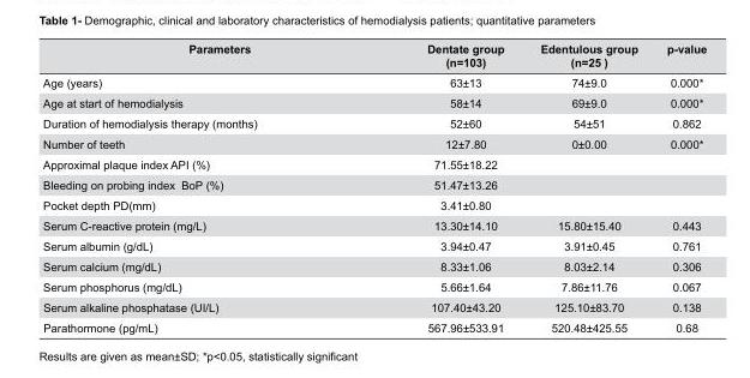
<table><thead><tr><td>Parameters</td><td>Dentate group (n=103)</td><td>Edentulous group (n=25 )</td><td>p-value</td></tr></thead><tbody><tr><td>Age (years)</td><td>63±13</td><td>74±9.0</td><td>0.000*</td></tr><tr><td>Age at start of hemodialysis</td><td>58±14</td><td>69±9.0</td><td>0.000*</td></tr><tr><td>Duration of hemodialysis therapy (months)</td><td>52±60</td><td>54±51</td><td>0.862</td></tr><tr><td>Number of teeth</td><td>12±7.80</td><td>0±0.00</td><td>0.000*</td></tr><tr><td>Approximal plaque index API (%)</td><td>71.55±18.22</td><td></td><td></td></tr><tr><td>Bleeding on probing index BoP (%)</td><td>51.47±13.26</td><td></td><td></td></tr><tr><td>Pocket depth PD(mm)</td><td>3.41±0.80</td><td></td><td></td></tr><tr><td>Serum C-reactive protein (mg/L)</td><td>13.30±14.10</td><td>15.80±15.40</td><td>0.443</td></tr><tr><td>Serum albumin (g/dL)</td><td>3.94±0.47</td><td>3.91±0.45</td><td>0.761</td></tr><tr><td>Serum calcium (mg/dL)</td><td>8.33±1.06</td><td>8.03±2.14</td><td>0.306</td></tr><tr><td>Serum phosphorus (mg/dL)</td><td>5.66±1.64</td><td>7.86±11.76</td><td>0.067</td></tr><tr><td>Serum alkaline phosphatase (UI/L)</td><td>107.40±43.20</td><td>125.10±83.70</td><td>0.138</td></tr><tr><td>Parathormone (pg/mL)</td><td>567.96±533.91</td><td>520.48±425.55</td><td>0.68</td></tr></tbody></table>